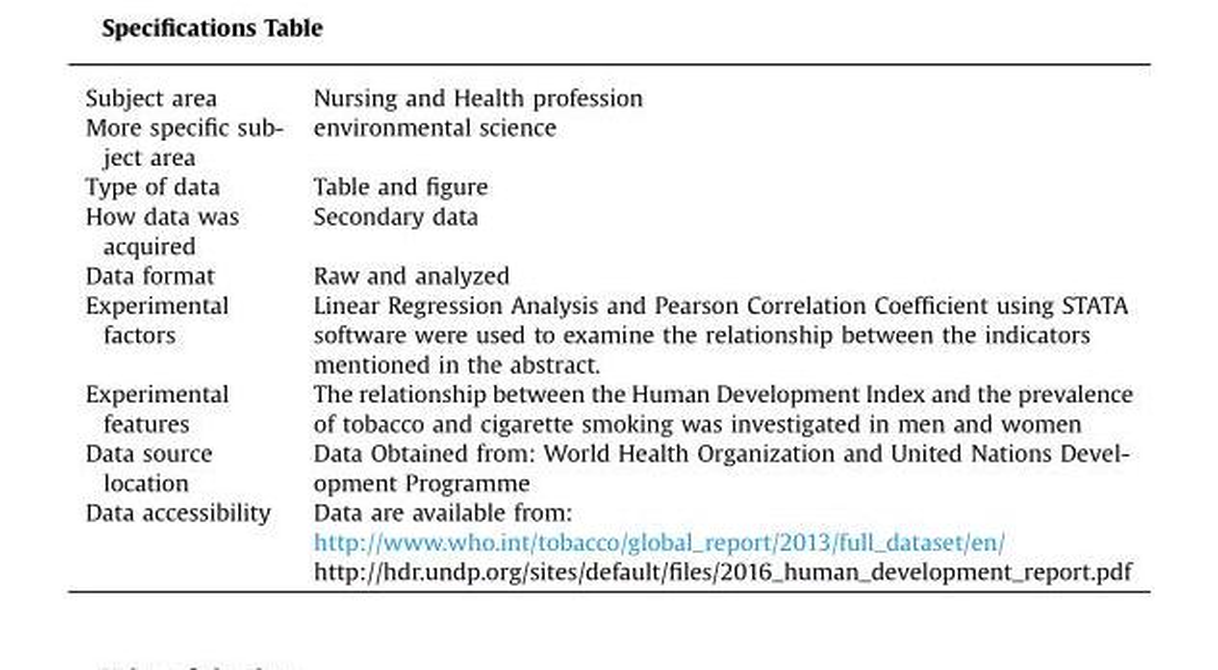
<table><tbody><tr><td>Subject area</td><td>Nursing and Health profession</td></tr><tr><td>More specific sub- ject area</td><td>environmental science</td></tr><tr><td>Type of data</td><td>Table and figure</td></tr><tr><td>How data was acquired</td><td>Secondary data</td></tr><tr><td>Data format</td><td>Raw and analyzed</td></tr><tr><td>Experimental factors</td><td>Linear Regression Analysis and Pearson Correlation Coefficient using STATA software were used to examine the relationship between the indicators mentioned in the abstract.</td></tr><tr><td>Experimental features</td><td>The relationship between the Human Development Index and the prevalence of tobacco and cigarette smoking was investigated in men and women</td></tr><tr><td>Data source location</td><td>Data Obtained from: World Health Organization and United Nations Devel- opment Programme</td></tr><tr><td rowspan="3">Data accessibility</td><td>Data are available from:</td></tr><tr><td>http://www.who.int/tobacco/global_report/2013/full_dataset/en/</td></tr><tr><td>http://hdr.undp.org/sites/default/files/2016_human_development_report.pdf</td></tr></tbody></table>